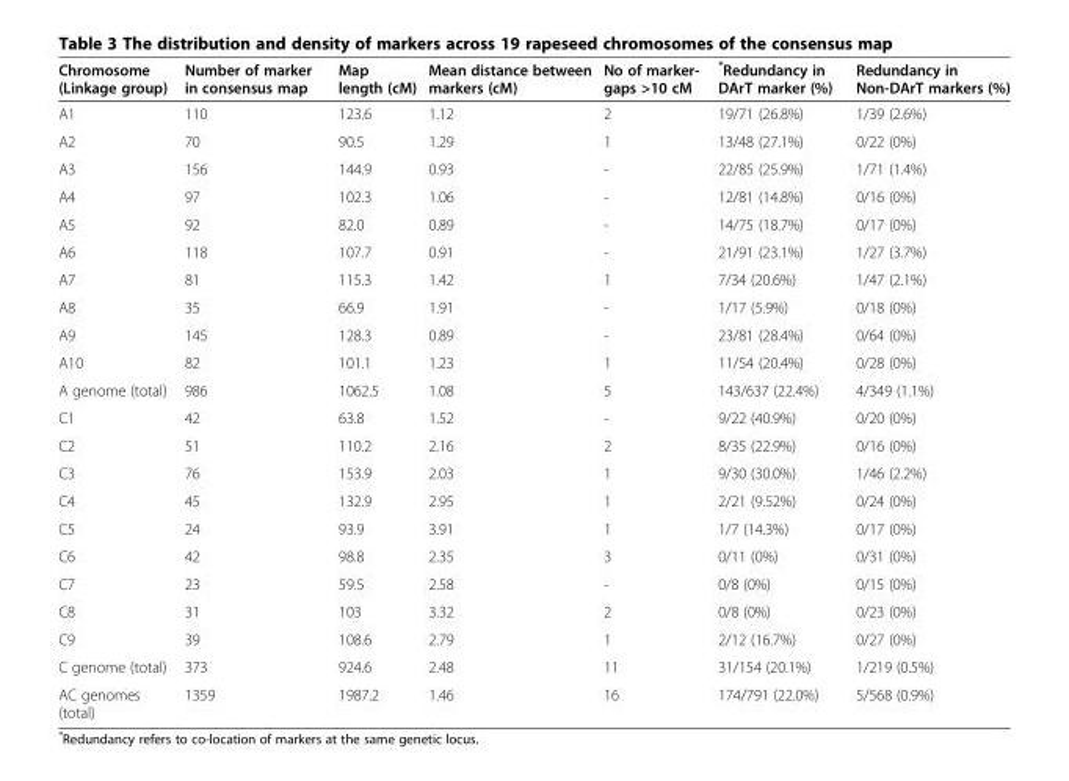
<table><thead><tr><td>Chromosome (Linkage group)</td><td>Number of marker in consensus map</td><td>Map length (cM)</td><td>Mean distance between markers (cM)</td><td>No of marker- gaps &gt;10 cM</td><td>*Redundancy in DArT marker (%)</td><td>Redundancy in Non-DArT markers (%)</td></tr></thead><tbody><tr><td>A1</td><td>110</td><td>123.6</td><td>1.12</td><td>2</td><td>19/71 (26.8%)</td><td>1/39 (2.6%)</td></tr><tr><td>A2</td><td>70</td><td>90.5</td><td>1.29</td><td>1</td><td>13/48 (27.1%)</td><td>0/22 (0%)</td></tr><tr><td>A3</td><td>156</td><td>144.9</td><td>0.93</td><td>-</td><td>22/85 (25.9%)</td><td>1/71 (1.4%)</td></tr><tr><td>A4</td><td>97</td><td>102.3</td><td>1.06</td><td>-</td><td>12/81 (14.8%)</td><td>0/16 (0%)</td></tr><tr><td>A5</td><td>92</td><td>82.0</td><td>0.89</td><td>-</td><td>14/75 (18.7%)</td><td>0/17 (0%)</td></tr><tr><td>A6</td><td>118</td><td>107.7</td><td>0.91</td><td>-</td><td>21/91 (23.1%)</td><td>1/27 (3.7%)</td></tr><tr><td>A7</td><td>81</td><td>115.3</td><td>1.42</td><td>1</td><td>7/34 (20.6%)</td><td>1/47 (2.1%)</td></tr><tr><td>A8</td><td>35</td><td>66.9</td><td>1.91</td><td>-</td><td>1/17 (5.9%)</td><td>0/18 (0%)</td></tr><tr><td>A9</td><td>145</td><td>128.3</td><td>0.89</td><td>-</td><td>23/81 (28.4%)</td><td>0/64 (0%)</td></tr><tr><td>A10</td><td>82</td><td>101.1</td><td>1.23</td><td>1</td><td>11/54 (20.4%)</td><td>0/28 (0%)</td></tr><tr><td>A genome (total)</td><td>986</td><td>1062.5</td><td>1.08</td><td>5</td><td>143/637 (22.4%)</td><td>4/349 (1.1%)</td></tr><tr><td>C1</td><td>42</td><td>63.8</td><td>1.52</td><td>-</td><td>9/22 (40.9%)</td><td>0/20 (0%)</td></tr><tr><td>C2</td><td>51</td><td>110.2</td><td>2.16</td><td>2</td><td>8/35 (22.9%)</td><td>0/16 (0%)</td></tr><tr><td>C3</td><td>76</td><td>153.9</td><td>2.03</td><td>1</td><td>9/30 (30.0%)</td><td>1/46 (2.2%)</td></tr><tr><td>C4</td><td>45</td><td>132.9</td><td>2.95</td><td>1</td><td>2/21 (9.52%)</td><td>0/24 (0%)</td></tr><tr><td>C5</td><td>24</td><td>93.9</td><td>3.91</td><td>1</td><td>1/7 (14.3%)</td><td>0/17 (0%)</td></tr><tr><td>C6</td><td>42</td><td>98.8</td><td>2.35</td><td>3</td><td>0/11 (0%)</td><td>0/31 (0%)</td></tr><tr><td>C7</td><td>23</td><td>59.5</td><td>2.58</td><td>-</td><td>0/8 (0%)</td><td>0/15 (0%)</td></tr><tr><td>C8</td><td>31</td><td>103</td><td>3.32</td><td>2</td><td>0/8 (0%)</td><td>0/23 (0%)</td></tr><tr><td>C9</td><td>39</td><td>108.6</td><td>2.79</td><td>1</td><td>2/12 (16.7%)</td><td>0/27 (0%)</td></tr><tr><td>C genome (total)</td><td>373</td><td>924.6</td><td>2.48</td><td>11</td><td>31/154 (20.1%)</td><td>1/219 (0.5%)</td></tr><tr><td>AC genomes (total)</td><td>1359</td><td>1987.2</td><td>1.46</td><td>16</td><td>174/791 (22.0%)</td><td>5/568 (0.9%)</td></tr></tbody></table>